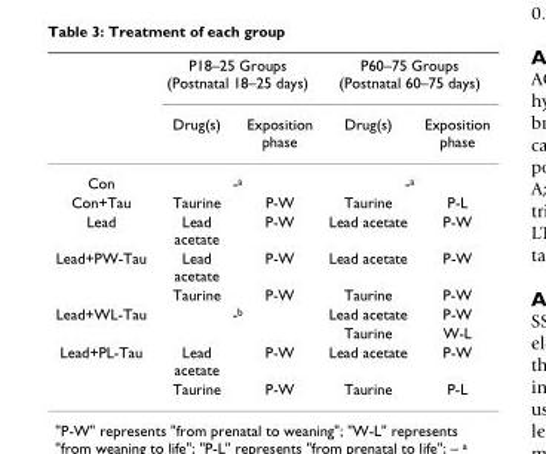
<table><thead><tr><td rowspan="2"></td><td colspan="2">P18–25 Groups (Postnatal 18–25 days)</td><td colspan="2">P60–75 Groups (Postnatal 60–75 days)</td></tr><tr><td>Drug(s)</td><td>Exposition phase</td><td>Drug(s)</td><td>Exposition phase</td></tr></thead><tbody><tr><td>Con</td><td colspan="2">-<sup>a</sup></td><td colspan="2">-<sup>a</sup></td></tr><tr><td>Con+Tau</td><td>Taurine</td><td>P-W</td><td>Taurine</td><td>P-L</td></tr><tr><td>Lead</td><td>Lead acetate</td><td>P-W</td><td>Lead acetate</td><td>P-W</td></tr><tr><td rowspan="2">Lead+PW-Tau</td><td>Lead acetate</td><td>P-W</td><td>Lead acetate</td><td>P-W</td></tr><tr><td>Taurine</td><td>P-W</td><td>Taurine</td><td>P-W</td></tr><tr><td rowspan="2">Lead+WL-Tau</td><td colspan="2">-<sup>b</sup></td><td>Lead acetate</td><td>P-W</td></tr><tr><td></td><td></td><td>Taurine</td><td>W-L</td></tr><tr><td rowspan="2">Lead+PL-Tau</td><td>Lead acetate</td><td>P-W</td><td>Lead acetate</td><td>P-W</td></tr><tr><td>Taurine</td><td>P-W</td><td>Taurine</td><td>P-L</td></tr></tbody></table>